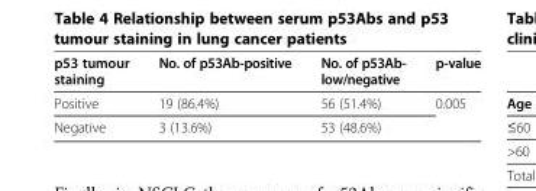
<table><thead><tr><td>p53 tumour staining</td><td>No. of p53Ab-positive</td><td>No. of p53Ab- low/negative</td><td>p-value</td></tr></thead><tbody><tr><td>Positive</td><td>19 (86.4%)</td><td>56 (51.4%)</td><td rowspan="2">0.005</td></tr><tr><td>Negative</td><td>3 (13.6%)</td><td>53 (48.6%)</td></tr></tbody></table>